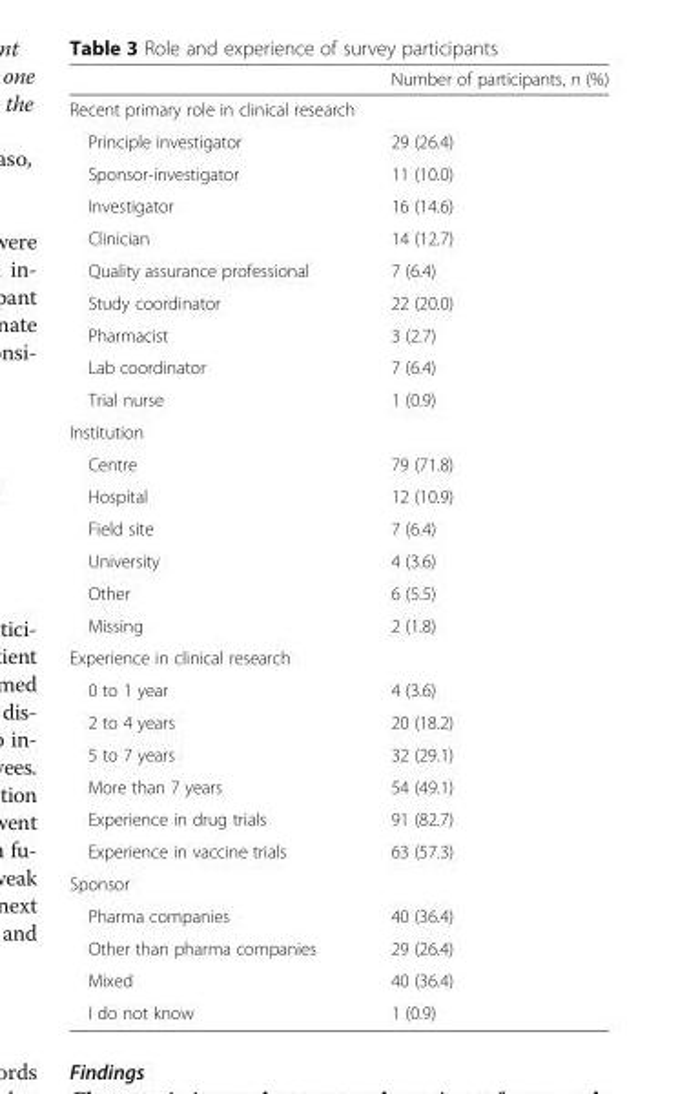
<table><thead><tr><td></td><td>Number of participants, n (%)</td></tr></thead><tbody><tr><td colspan="2">Recent primary role in clinical research</td></tr><tr><td>Principle investigator</td><td>29 (26.4)</td></tr><tr><td>Sponsor-investigator</td><td>11 (10.0)</td></tr><tr><td>Investigator</td><td>16 (14.6)</td></tr><tr><td>Clinician</td><td>14 (12.7)</td></tr><tr><td>Quality assurance professional</td><td>7 (6.4)</td></tr><tr><td>Study coordinator</td><td>22 (20.0)</td></tr><tr><td>Pharmacist</td><td>3 (2.7)</td></tr><tr><td>Lab coordinator</td><td>7 (6.4)</td></tr><tr><td>Trial nurse</td><td>1 (0.9)</td></tr><tr><td colspan="2">Institution</td></tr><tr><td>Centre</td><td>79 (71.8)</td></tr><tr><td>Hospital</td><td>12 (10.9)</td></tr><tr><td>Field site</td><td>7 (6.4)</td></tr><tr><td>University</td><td>4 (3.6)</td></tr><tr><td>Other</td><td>6 (5.5)</td></tr><tr><td>Missing</td><td>2 (1.8)</td></tr><tr><td colspan="2">Experience in clinical research</td></tr><tr><td>0 to 1 year</td><td>4 (3.6)</td></tr><tr><td>2 to 4 years</td><td>20 (18.2)</td></tr><tr><td>5 to 7 years</td><td>32 (29.1)</td></tr><tr><td>More than 7 years</td><td>54 (49.1)</td></tr><tr><td>Experience in drug trials</td><td>91 (82.7)</td></tr><tr><td>Experience in vaccine trials</td><td>63 (57.3)</td></tr><tr><td colspan="2">Sponsor</td></tr><tr><td>Pharma companies</td><td>40 (36.4)</td></tr><tr><td>Other than pharma companies</td><td>29 (26.4)</td></tr><tr><td>Mixed</td><td>40 (36.4)</td></tr><tr><td>I do not know</td><td>1 (0.9)</td></tr></tbody></table>